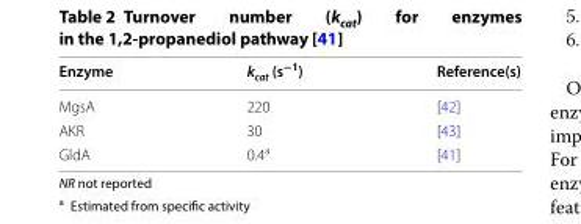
<table><thead><tr><td>Enzyme</td><td>k<sub>cat</sub> (s<sup>−1</sup>)</td><td>Reference(s)</td></tr></thead><tbody><tr><td>MgsA</td><td>220</td><td>[42]</td></tr><tr><td>AKR</td><td>30</td><td>[43]</td></tr><tr><td>GldA</td><td>0.4<sup>a</sup></td><td>[41]</td></tr></tbody></table>